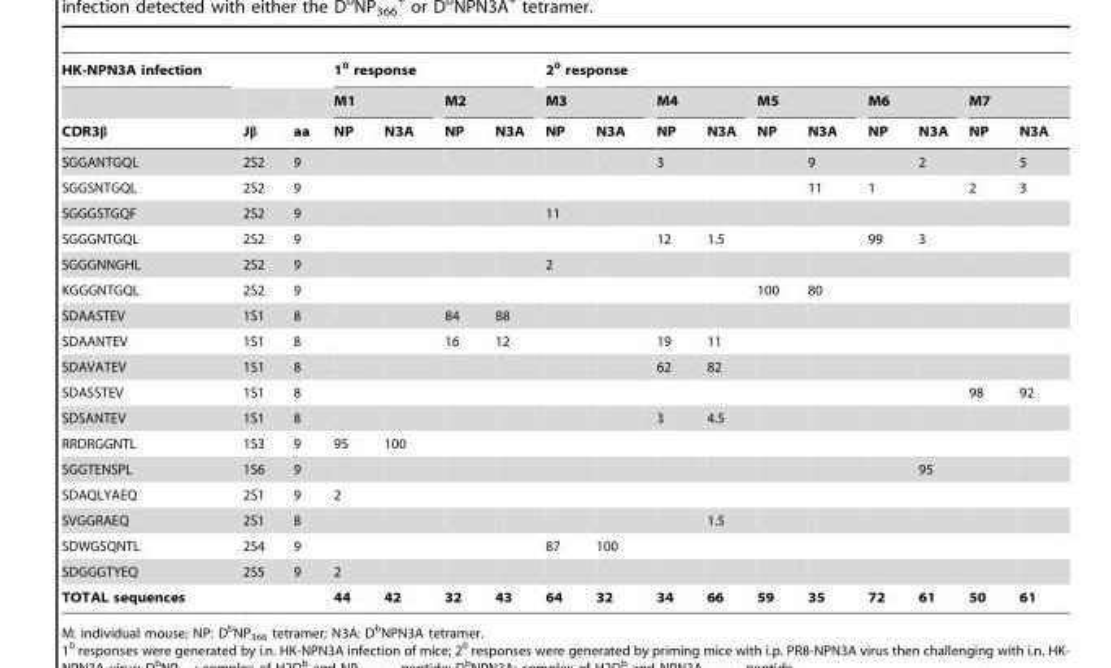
<table><thead><tr><td rowspan="3">HK-NPN3A infection CDR3β</td><td rowspan="3">Jβ</td><td rowspan="3">aa</td><td colspan="4">1<sup>0</sup> response</td><td colspan="10">2<sup>0</sup> response</td></tr><tr><td colspan="2">M1</td><td colspan="2">M2</td><td colspan="2">M3</td><td colspan="2">M4</td><td colspan="2">M5</td><td colspan="2">M6</td><td colspan="2">M7</td></tr><tr><td>NP</td><td>N3A</td><td>NP</td><td>N3A</td><td>NP</td><td>N3A</td><td>NP</td><td>N3A</td><td>NP</td><td>N3A</td><td>NP</td><td>N3A</td><td>NP</td><td>N3A</td></tr></thead><tbody><tr><td>SGGANTGQL</td><td>2S2</td><td>9</td><td></td><td></td><td></td><td></td><td></td><td></td><td>3</td><td></td><td></td><td>9</td><td></td><td>2</td><td></td><td>5</td></tr><tr><td>SGGSNTGQL</td><td>2S2</td><td>9</td><td></td><td></td><td></td><td></td><td></td><td></td><td></td><td></td><td></td><td>11</td><td>1</td><td></td><td>2</td><td>3</td></tr><tr><td>SGGGSTGQF</td><td>2S2</td><td>9</td><td></td><td></td><td></td><td></td><td>11</td><td></td><td></td><td></td><td></td><td></td><td></td><td></td><td></td><td></td></tr><tr><td>SGGGNTGQL</td><td>2S2</td><td>9</td><td></td><td></td><td></td><td></td><td></td><td></td><td>12</td><td>1.5</td><td></td><td></td><td>99</td><td>3</td><td></td><td></td></tr><tr><td>SGGGNNGHL</td><td>2S2</td><td>9</td><td></td><td></td><td></td><td></td><td>2</td><td></td><td></td><td></td><td></td><td></td><td></td><td></td><td></td><td></td></tr><tr><td>KGGGNTGQL</td><td>2S2</td><td>9</td><td></td><td></td><td></td><td></td><td></td><td></td><td></td><td></td><td>100</td><td>80</td><td></td><td></td><td></td><td></td></tr><tr><td>SDAASTEV</td><td>1S1</td><td>8</td><td></td><td></td><td>84</td><td>88</td><td></td><td></td><td></td><td></td><td></td><td></td><td></td><td></td><td></td><td></td></tr><tr><td>SDAANTEV</td><td>1S1</td><td>8</td><td></td><td></td><td>16</td><td>12</td><td></td><td></td><td>19</td><td>11</td><td></td><td></td><td></td><td></td><td></td><td></td></tr><tr><td>SDAVATEV</td><td>1S1</td><td>8</td><td></td><td></td><td></td><td></td><td></td><td></td><td>62</td><td>82</td><td></td><td></td><td></td><td></td><td></td><td></td></tr><tr><td>SDASSTEV</td><td>1S1</td><td>8</td><td></td><td></td><td></td><td></td><td></td><td></td><td></td><td></td><td></td><td></td><td></td><td></td><td>98</td><td>92</td></tr><tr><td>SDSANTEV</td><td>1S1</td><td>8</td><td></td><td></td><td></td><td></td><td></td><td></td><td>3</td><td>4.5</td><td></td><td></td><td></td><td></td><td></td><td></td></tr><tr><td>RRDRGGNTL</td><td>1S3</td><td>9</td><td>95</td><td>100</td><td></td><td></td><td></td><td></td><td></td><td></td><td></td><td></td><td></td><td></td><td></td><td></td></tr><tr><td>SGGTENSPL</td><td>1S6</td><td>9</td><td></td><td></td><td></td><td></td><td></td><td></td><td></td><td></td><td></td><td></td><td></td><td>95</td><td></td><td></td></tr><tr><td>SDAQLYAEQ</td><td>2S1</td><td>9</td><td>2</td><td></td><td></td><td></td><td></td><td></td><td></td><td></td><td></td><td></td><td></td><td></td><td></td><td></td></tr><tr><td>SVGGRAEQ</td><td>2S1</td><td>8</td><td></td><td></td><td></td><td></td><td></td><td></td><td></td><td>1.5</td><td></td><td></td><td></td><td></td><td></td><td></td></tr><tr><td>SDWGSQNTL</td><td>2S4</td><td>9</td><td></td><td></td><td></td><td></td><td>87</td><td>100</td><td></td><td></td><td></td><td></td><td></td><td></td><td></td><td></td></tr><tr><td>SDGGGTYEQ</td><td>2S5</td><td>9</td><td>2</td><td></td><td></td><td></td><td></td><td></td><td></td><td></td><td></td><td></td><td></td><td></td><td></td><td></td></tr><tr><td>TOTAL sequences</td><td></td><td></td><td>44</td><td>42</td><td>32</td><td>43</td><td>64</td><td>32</td><td>34</td><td>66</td><td>59</td><td>35</td><td>72</td><td>61</td><td>50</td><td>61</td></tr></tbody></table>